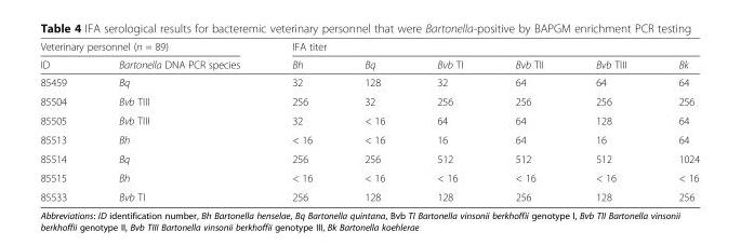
<table><thead><tr><td colspan="2">Veterinary personnel (n = 89)</td><td colspan="6">IFA titer</td></tr><tr><td>ID</td><td>Bartonella DNA PCR species</td><td>Bh</td><td>Bq</td><td>Bvb TI</td><td>Bvb TII</td><td>Bvb TIII</td><td>Bk</td></tr></thead><tbody><tr><td>85459</td><td>Bq</td><td>32</td><td>128</td><td>32</td><td>64</td><td>64</td><td>64</td></tr><tr><td>85504</td><td>Bvb TIII</td><td>256</td><td>32</td><td>256</td><td>256</td><td>256</td><td>256</td></tr><tr><td>85505</td><td>Bvb TIII</td><td>32</td><td>&lt; 16</td><td>64</td><td>64</td><td>128</td><td>64</td></tr><tr><td>85513</td><td>Bh</td><td>&lt; 16</td><td>&lt; 16</td><td>16</td><td>64</td><td>16</td><td>64</td></tr><tr><td>85514</td><td>Bq</td><td>256</td><td>256</td><td>512</td><td>512</td><td>512</td><td>1024</td></tr><tr><td>85515</td><td>Bh</td><td>&lt; 16</td><td>&lt; 16</td><td>&lt; 16</td><td>&lt; 16</td><td>&lt; 16</td><td>&lt; 16</td></tr><tr><td>85533</td><td>Bvb TI</td><td>256</td><td>128</td><td>128</td><td>256</td><td>128</td><td>256</td></tr></tbody></table>